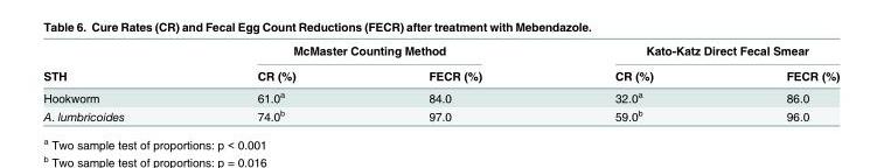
<table><thead><tr><td rowspan="2">STH</td><td colspan="2">McMaster Counting Method</td><td colspan="2">Kato-Katz Direct Fecal Smear</td></tr><tr><td>CR (%)</td><td>FECR (%)</td><td>CR (%)</td><td>FECR (%)</td></tr></thead><tbody><tr><td>Hookworm</td><td>61.0<sup>a</sup></td><td>84.0</td><td>32.0<sup>a</sup></td><td>86.0</td></tr><tr><td>A. lumbricoides</td><td>74.0<sup>b</sup></td><td>97.0</td><td>59.0<sup>b</sup></td><td>96.0</td></tr></tbody></table>